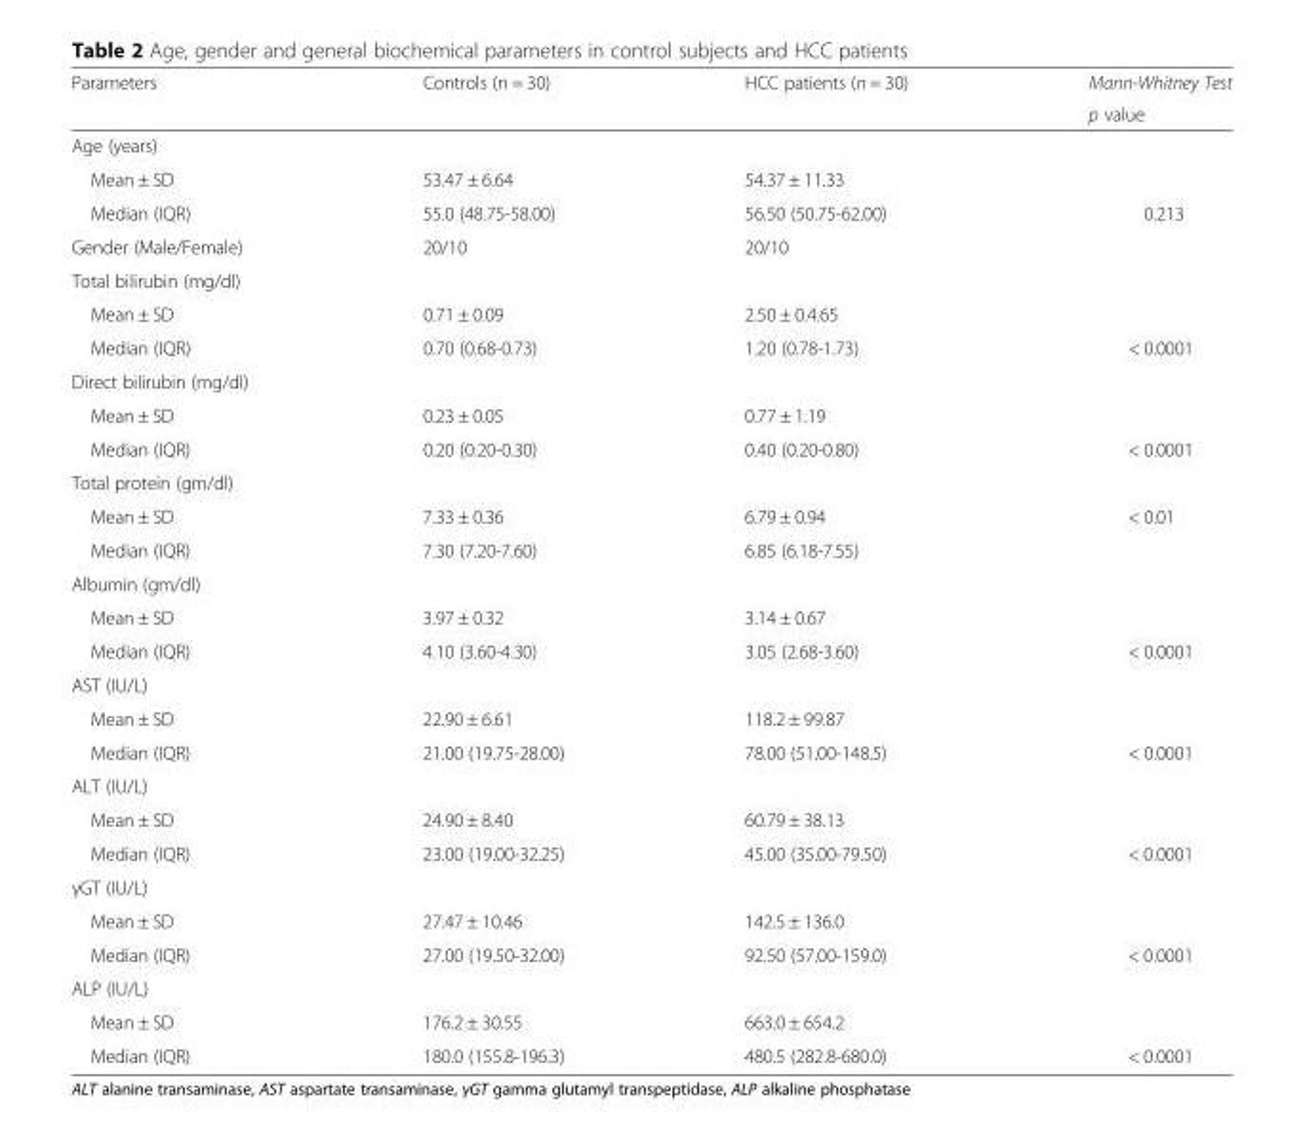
<table><thead><tr><td rowspan="2">Parameters</td><td rowspan="2">Controls (n = 30)</td><td rowspan="2">HCC patients (n = 30)</td><td rowspan="2">Mann-Whitney Test p value</td></tr><tr></tr></thead><tbody><tr><td colspan="4">Age (years)</td></tr><tr><td>Mean ± SD</td><td>53.47 ± 6.64</td><td>54.37 ± 11.33</td><td></td></tr><tr><td>Median (IQR)</td><td>55.0 (48.75-58.00)</td><td>56.50 (50.75-62.00)</td><td>0.213</td></tr><tr><td>Gender (Male/Female)</td><td>20/10</td><td>20/10</td><td></td></tr><tr><td colspan="4">Total bilirubin (mg/dl)</td></tr><tr><td>Mean ± SD</td><td>0.71 ± 0.09</td><td>2.50 ± 0.4.65</td><td></td></tr><tr><td>Median (IQR)</td><td>0.70 (0.68-0.73)</td><td>1.20 (0.78-1.73)</td><td>&lt; 0.0001</td></tr><tr><td colspan="4">Direct bilirubin (mg/dl)</td></tr><tr><td>Mean ± SD</td><td>0.23 ± 0.05</td><td>0.77 ± 1.19</td><td></td></tr><tr><td>Median (IQR)</td><td>0.20 (0.20-0.30)</td><td>0.40 (0.20-0.80)</td><td>&lt; 0.0001</td></tr><tr><td colspan="4">Total protein (gm/dl)</td></tr><tr><td>Mean ± SD</td><td>7.33 ± 0.36</td><td>6.79 ± 0.94</td><td>&lt; 0.01</td></tr><tr><td>Median (IQR)</td><td>7.30 (7.20-7.60)</td><td>6.85 (6.18-7.55)</td><td></td></tr><tr><td colspan="4">Albumin (gm/dl)</td></tr><tr><td>Mean ± SD</td><td>3.97 ± 0.32</td><td>3.14 ± 0.67</td><td></td></tr><tr><td>Median (IQR)</td><td>4.10 (3.60-4.30)</td><td>3.05 (2.68-3.60)</td><td>&lt; 0.0001</td></tr><tr><td colspan="4">AST (IU/L)</td></tr><tr><td>Mean ± SD</td><td>22.90 ± 6.61</td><td>118.2 ± 99.87</td><td></td></tr><tr><td>Median (IQR)</td><td>21.00 (19.75-28.00)</td><td>78.00 (51.00-148.5)</td><td>&lt; 0.0001</td></tr><tr><td colspan="4">ALT (IU/L)</td></tr><tr><td>Mean ± SD</td><td>24.90 ± 8.40</td><td>60.79 ± 38.13</td><td></td></tr><tr><td>Median (IQR)</td><td>23.00 (19.00-32.25)</td><td>45.00 (35.00-79.50)</td><td>&lt; 0.0001</td></tr><tr><td colspan="4">γGT (IU/L)</td></tr><tr><td>Mean ± SD</td><td>27.47 ± 10.46</td><td>142.5 ± 136.0</td><td></td></tr><tr><td>Median (IQR)</td><td>27.00 (19.50-32.00)</td><td>92.50 (57.00-159.0)</td><td>&lt; 0.0001</td></tr><tr><td colspan="4">ALP (IU/L)</td></tr><tr><td>Mean ± SD</td><td>176.2 ± 30.55</td><td>663.0 ± 654.2</td><td></td></tr><tr><td>Median (IQR)</td><td>180.0 (155.8-196.3)</td><td>480.5 (282.8-680.0)</td><td>&lt; 0.0001</td></tr></tbody></table>